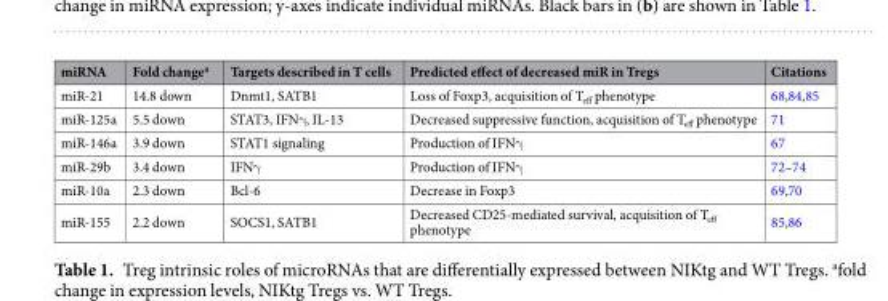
<table><thead><tr><td>miRNA</td><td>Fold change<sup>a</sup></td><td>Targets described in T cells</td><td>Predicted effect of decreased miR in Tregs</td><td>Citations</td></tr></thead><tbody><tr><td>miR-21</td><td>14.8 down</td><td>Dnmt1, SATB1</td><td>Loss of Foxp3, acquisition of T<sub>eff</sub> phenotype</td><td>68,84,85</td></tr><tr><td>miR-125a</td><td>5.5 down</td><td>STAT3, IFNγ, IL-13</td><td>Decreased suppressive function, acquisition of T<sub>eff</sub> phenotype</td><td>71</td></tr><tr><td>miR-146a</td><td>3.9 down</td><td>STAT1 signaling</td><td>Production of IFNγ</td><td>67</td></tr><tr><td>miR-29b</td><td>3.4 down</td><td>IFNγ</td><td>Production of IFNγ</td><td>72–74</td></tr><tr><td>miR-10a</td><td>2.3 down</td><td>Bcl-6</td><td>Decrease in Foxp3</td><td>69,70</td></tr><tr><td>miR-155</td><td>2.2 down</td><td>SOCS1, SATB1</td><td>Decreased CD25-mediated survival, acquisition of T<sub>eff</sub> phenotype</td><td>85,86</td></tr></tbody></table>